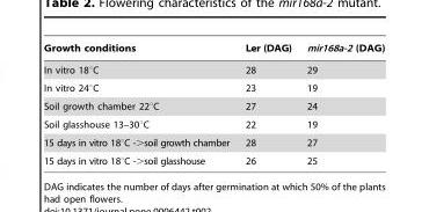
<table><thead><tr><td>Growth conditions</td><td>Ler (DAG)</td><td>mir168a-2 (DAG)</td></tr></thead><tbody><tr><td>In vitro 18°C</td><td>28</td><td>29</td></tr><tr><td>In vitro 24°C</td><td>23</td><td>19</td></tr><tr><td>Soil growth chamber 22°C</td><td>27</td><td>24</td></tr><tr><td>Soil glasshouse 13–30°C</td><td>22</td><td>19</td></tr><tr><td>15 days in vitro 18°C -&gt;soil growth chamber</td><td>28</td><td>27</td></tr><tr><td>15 days in vitro 18°C -&gt;soil glasshouse</td><td>26</td><td>25</td></tr></tbody></table>